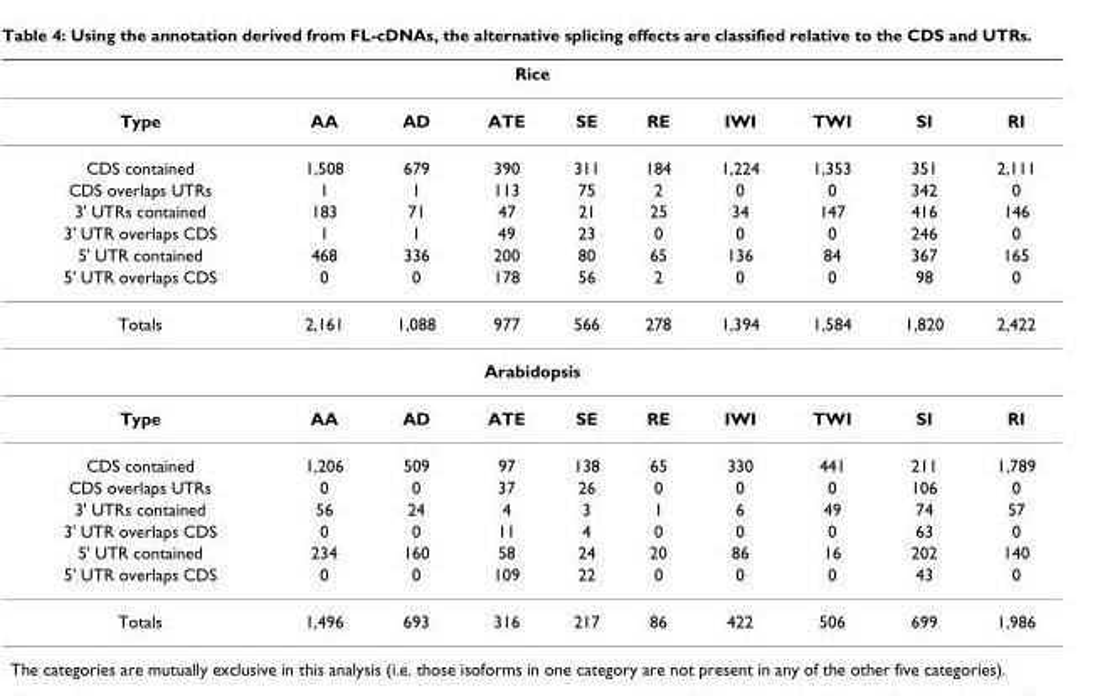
<table><thead><tr><td colspan="10">Rice</td></tr><tr><td>Type</td><td>AA</td><td>AD</td><td>ATE</td><td>SE</td><td>RE</td><td>IWI</td><td>TWI</td><td>SI</td><td>RI</td></tr></thead><tbody><tr><td>CDS contained</td><td>1,508</td><td>679</td><td>390</td><td>311</td><td>184</td><td>1,224</td><td>1,353</td><td>351</td><td>2,111</td></tr><tr><td>CDS overlaps UTRs</td><td>1</td><td>1</td><td>113</td><td>75</td><td>2</td><td>0</td><td>0</td><td>342</td><td>0</td></tr><tr><td>3&#x27; UTRs contained</td><td>183</td><td>71</td><td>47</td><td>21</td><td>25</td><td>34</td><td>147</td><td>416</td><td>146</td></tr><tr><td>3&#x27; UTR overlaps CDS</td><td>1</td><td>1</td><td>49</td><td>23</td><td>0</td><td>0</td><td>0</td><td>246</td><td>0</td></tr><tr><td>5&#x27; UTR contained</td><td>468</td><td>336</td><td>200</td><td>80</td><td>65</td><td>136</td><td>84</td><td>367</td><td>165</td></tr><tr><td>5&#x27; UTR overlaps CDS</td><td>0</td><td>0</td><td>178</td><td>56</td><td>2</td><td>0</td><td>0</td><td>98</td><td>0</td></tr><tr><td>Totals</td><td>2,161</td><td>1,088</td><td>977</td><td>566</td><td>278</td><td>1,394</td><td>1,584</td><td>1,820</td><td>2,422</td></tr><tr><td colspan="10">Arabidopsis</td></tr><tr><td>Type</td><td>AA</td><td>AD</td><td>ATE</td><td>SE</td><td>RE</td><td>IWI</td><td>TWI</td><td>SI</td><td>RI</td></tr><tr><td>CDS contained</td><td>1,206</td><td>509</td><td>97</td><td>138</td><td>65</td><td>330</td><td>441</td><td>211</td><td>1,789</td></tr><tr><td>CDS overlaps UTRs</td><td>0</td><td>0</td><td>37</td><td>26</td><td>0</td><td>0</td><td>0</td><td>106</td><td>0</td></tr><tr><td>3&#x27; UTRs contained</td><td>56</td><td>24</td><td>4</td><td>3</td><td>1</td><td>6</td><td>49</td><td>74</td><td>57</td></tr><tr><td>3&#x27; UTR overlaps CDS</td><td>0</td><td>0</td><td>11</td><td>4</td><td>0</td><td>0</td><td>0</td><td>63</td><td>0</td></tr><tr><td>5&#x27; UTR contained</td><td>234</td><td>160</td><td>58</td><td>24</td><td>20</td><td>86</td><td>16</td><td>202</td><td>140</td></tr><tr><td>5&#x27; UTR overlaps CDS</td><td>0</td><td>0</td><td>109</td><td>22</td><td>0</td><td>0</td><td>0</td><td>43</td><td>0</td></tr><tr><td>Totals</td><td>1,496</td><td>693</td><td>316</td><td>217</td><td>86</td><td>422</td><td>506</td><td>699</td><td>1,986</td></tr></tbody></table>